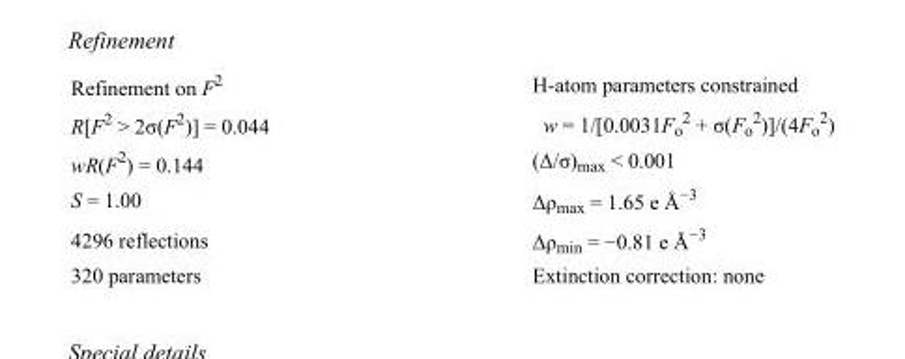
<table><tbody><tr><td>Refinement on F<sup>2</sup></td><td>H-atom parameters constrained</td></tr><tr><td>R[F<sup>2</sup> &gt; 2σ(F<sup>2</sup>)] = 0.044</td><td>w = 1/[0.0031F<sub>o</sub> <sup>2</sup> + σ(F<sub>o</sub> <sup>2</sup>)]/(4F<sub>o</sub> <sup>2</sup>)</td></tr><tr><td>wR(F<sup>2</sup>) = 0.144</td><td>(Δ/σ)<sub>max</sub> &lt; 0.001</td></tr><tr><td>S = 1.00</td><td>Δρ<sub>max</sub> = 1.65 e Å<sup>−3</sup></td></tr><tr><td>4296 reflections</td><td>Δρ<sub>min</sub> = −0.81 e Å<sup>−3</sup></td></tr><tr><td>320 parameters</td><td>Extinction correction: none</td></tr></tbody></table>